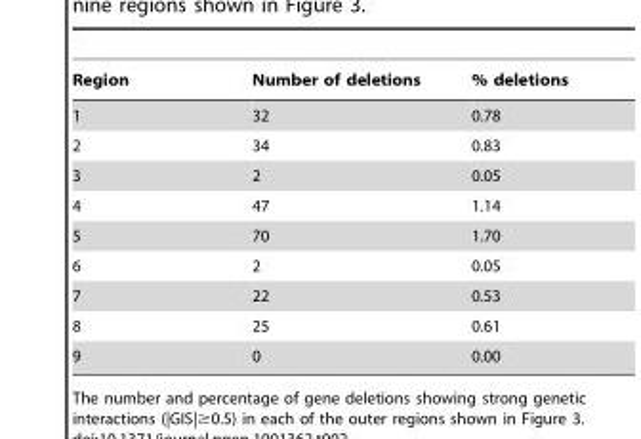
<table><thead><tr><td>Region</td><td>Number of deletions</td><td>% deletions</td></tr></thead><tbody><tr><td>1</td><td>32</td><td>0.78</td></tr><tr><td>2</td><td>34</td><td>0.83</td></tr><tr><td>3</td><td>2</td><td>0.05</td></tr><tr><td>4</td><td>47</td><td>1.14</td></tr><tr><td>5</td><td>70</td><td>1.70</td></tr><tr><td>6</td><td>2</td><td>0.05</td></tr><tr><td>7</td><td>22</td><td>0.53</td></tr><tr><td>8</td><td>25</td><td>0.61</td></tr><tr><td>9</td><td>0</td><td>0.00</td></tr></tbody></table>